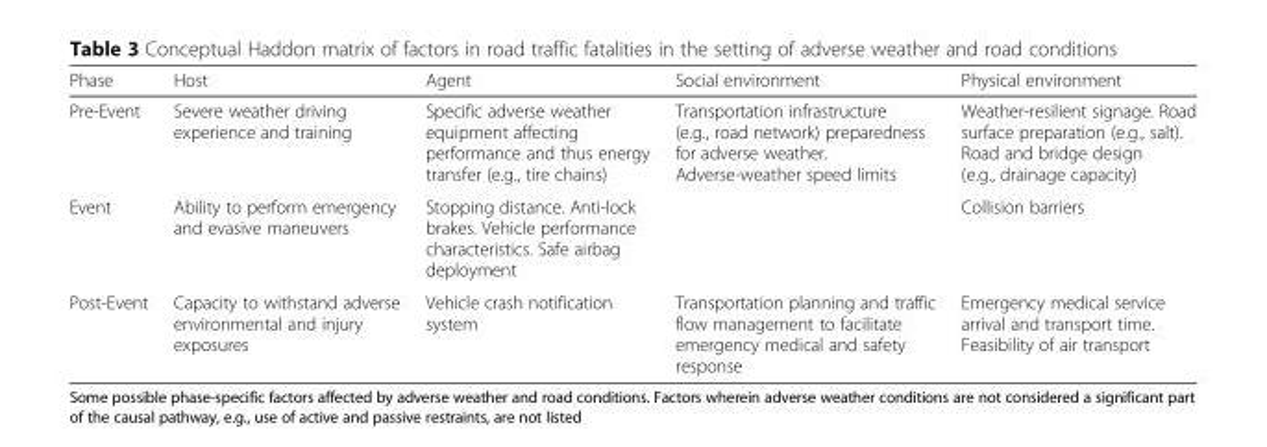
<table><thead><tr><td>Phase</td><td>Host</td><td>Agent</td><td>Social environment</td><td>Physical environment</td></tr></thead><tbody><tr><td>Pre-Event</td><td>Severe weather driving experience and training</td><td>Specific adverse weather equipment affecting performance and thus energy transfer (e.g., tire chains)</td><td>Transportation infrastructure (e.g., road network) preparedness for adverse weather. Adverse-weather speed limits</td><td>Weather-resilient signage. Road surface preparation (e.g., salt). Road and bridge design (e.g., drainage capacity)</td></tr><tr><td>Event</td><td>Ability to perform emergency and evasive maneuvers</td><td>Stopping distance. Anti-lock brakes. Vehicle performance characteristics. Safe airbag deployment</td><td></td><td>Collision barriers</td></tr><tr><td>Post-Event</td><td>Capacity to withstand adverse environmental and injury exposures</td><td>Vehicle crash notification system</td><td>Transportation planning and traffic flow management to facilitate emergency medical and safety response</td><td>Emergency medical service arrival and transport time. Feasibility of air transport</td></tr></tbody></table>